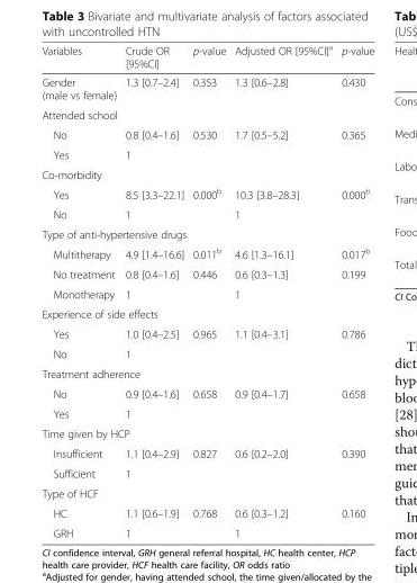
<table><thead><tr><td>Variables</td><td>Crude OR [95%CI]</td><td>p-value</td><td>Adjusted OR [95%CI]<sup>a</sup></td><td>p-value</td></tr></thead><tbody><tr><td>Gender (male vs female)</td><td>1.3 [0.7–2.4]</td><td>0.353</td><td>1.3 [0.6–2.8]</td><td>0.430</td></tr><tr><td colspan="5">Attended school</td></tr><tr><td>No</td><td>0.8 [0.4–1.6]</td><td>0.530</td><td>1.7 [0.5–5.2]</td><td>0.365</td></tr><tr><td>Yes</td><td>1</td><td></td><td></td><td></td></tr><tr><td colspan="5">Co-morbidity</td></tr><tr><td>Yes</td><td>8.5 [3.3–22.1]</td><td>0.000<sup>b</sup></td><td>10.3 [3.8–28.3]</td><td>0.000<sup>b</sup></td></tr><tr><td>No</td><td>1</td><td></td><td>1</td><td></td></tr><tr><td colspan="5">Type of anti-hypertensive drugs</td></tr><tr><td>Multitherapy</td><td>4.9 [1.4–16.6]</td><td>0.011<sup>b</sup></td><td>4.6 [1.3–16.1]</td><td>0.017<sup>b</sup></td></tr><tr><td>No treatment</td><td>0.8 [0.4–1.6]</td><td>0.446</td><td>0.6 [0.3–1.3]</td><td>0.199</td></tr><tr><td>Monotherapy</td><td>1</td><td></td><td>1</td><td></td></tr><tr><td colspan="5">Experience of side effects</td></tr><tr><td>Yes</td><td>1.0 [0.4–2.5]</td><td>0.965</td><td>1.1 [0.4–3.1]</td><td>0.786</td></tr><tr><td>No</td><td>1</td><td></td><td></td><td></td></tr><tr><td colspan="5">Treatment adherence</td></tr><tr><td>No</td><td>0.9 [0.4–1.6]</td><td>0.658</td><td>0.9 [0.4–1.7]</td><td>0.658</td></tr><tr><td>Yes</td><td>1</td><td></td><td></td><td></td></tr><tr><td colspan="5">Time given by HCP</td></tr><tr><td>Insufficient</td><td>1.1 [0.4–2.9]</td><td>0.827</td><td>0.6 [0.2–2.0]</td><td>0.390</td></tr><tr><td>Sufficient</td><td>1</td><td></td><td></td><td></td></tr><tr><td colspan="5">Type of HCF</td></tr><tr><td>HC</td><td>1.1 [0.6–1.9]</td><td>0.768</td><td>0.6 [0.3–1.2]</td><td>0.160</td></tr><tr><td>GRH</td><td>1</td><td></td><td>1</td><td></td></tr></tbody></table>